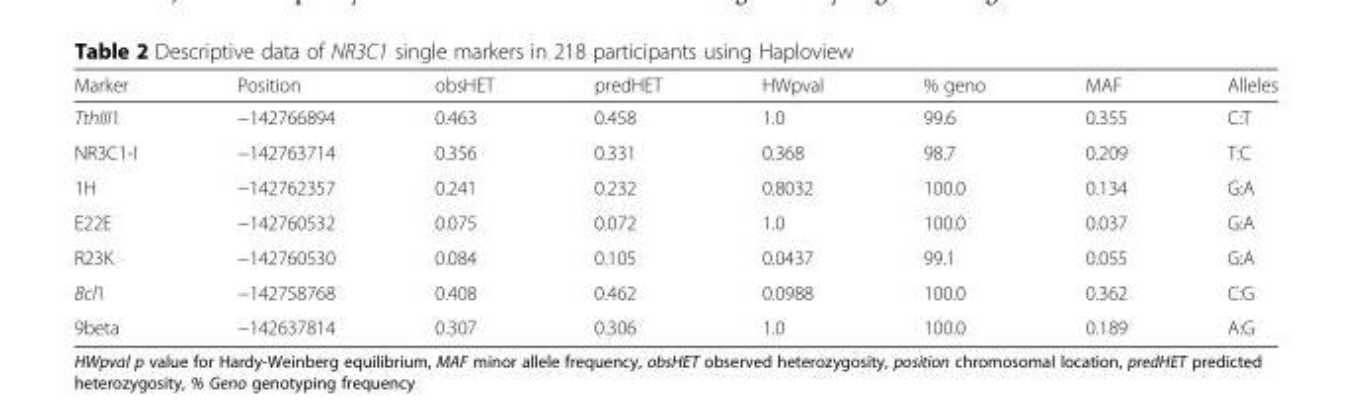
<table><thead><tr><td>Marker</td><td>Position</td><td>obsHET</td><td>predHET</td><td>HWpval</td><td>% geno</td><td>MAF</td><td>Alleles</td></tr></thead><tbody><tr><td>TthIII1</td><td>−142766894</td><td>0.463</td><td>0.458</td><td>1.0</td><td>99.6</td><td>0.355</td><td>C:T</td></tr><tr><td>NR3C1-I</td><td>−142763714</td><td>0.356</td><td>0.331</td><td>0.368</td><td>98.7</td><td>0.209</td><td>T:C</td></tr><tr><td>1H</td><td>−142762357</td><td>0.241</td><td>0.232</td><td>0.8032</td><td>100.0</td><td>0.134</td><td>G:A</td></tr><tr><td>E22E</td><td>−142760532</td><td>0.075</td><td>0.072</td><td>1.0</td><td>100.0</td><td>0.037</td><td>G:A</td></tr><tr><td>R23K</td><td>−142760530</td><td>0.084</td><td>0.105</td><td>0.0437</td><td>99.1</td><td>0.055</td><td>G:A</td></tr><tr><td>Bcl1</td><td>−142758768</td><td>0.408</td><td>0.462</td><td>0.0988</td><td>100.0</td><td>0.362</td><td>C:G</td></tr><tr><td>9beta</td><td>−142637814</td><td>0.307</td><td>0.306</td><td>1.0</td><td>100.0</td><td>0.189</td><td>A:G</td></tr></tbody></table>